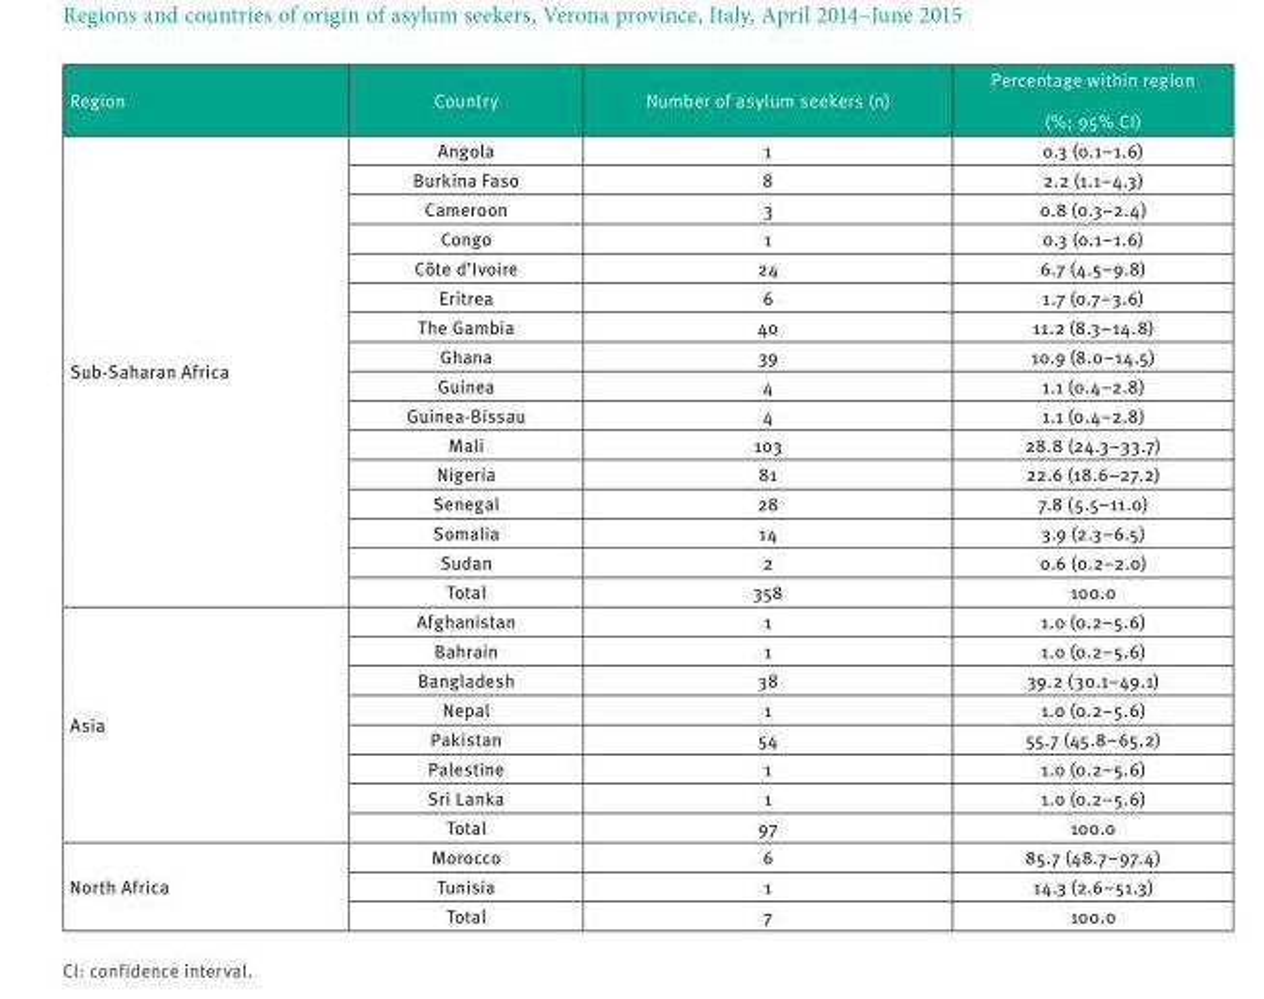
<table><thead><tr><td>Region</td><td>Country</td><td>Number of asylum seekers (n)</td><td>Percentage within region (%; 95% CI)</td></tr></thead><tbody><tr><td rowspan="16">Sub-Saharan Africa</td><td>Angola</td><td>1</td><td>0.3 (0.1–1.6)</td></tr><tr><td>Burkina Faso</td><td>8</td><td>2.2 (1.1–4.3)</td></tr><tr><td>Cameroon</td><td>3</td><td>0.8 (0.3–2.4)</td></tr><tr><td>Congo</td><td>1</td><td>0.3 (0.1–1.6)</td></tr><tr><td>Côte d’Ivoire</td><td>24</td><td>6.7 (4.5–9.8)</td></tr><tr><td>Eritrea</td><td>6</td><td>1.7 (0.7–3.6)</td></tr><tr><td>The Gambia</td><td>40</td><td>11.2 (8.3–14.8)</td></tr><tr><td>Ghana</td><td>39</td><td>10.9 (8.0–14.5)</td></tr><tr><td>Guinea</td><td>4</td><td>1.1 (0.4–2.8)</td></tr><tr><td>Guinea-Bissau</td><td>4</td><td>1.1 (0.4–2.8)</td></tr><tr><td>Mali</td><td>103</td><td>28.8 (24.3–33.7)</td></tr><tr><td>Nigeria</td><td>81</td><td>22.6 (18.6–27.2)</td></tr><tr><td>Senegal</td><td>28</td><td>7.8 (5.5–11.0)</td></tr><tr><td>Somalia</td><td>14</td><td>3.9 (2.3–6.5)</td></tr><tr><td>Sudan</td><td>2</td><td>0.6 (0.2–2.0)</td></tr><tr><td>Total</td><td>358</td><td>100.0</td></tr><tr><td rowspan="8">Asia</td><td>Afghanistan</td><td>1</td><td>1.0 (0.2–5.6)</td></tr><tr><td>Bahrain</td><td>1</td><td>1.0 (0.2–5.6)</td></tr><tr><td>Bangladesh</td><td>38</td><td>39.2 (30.1–49.1)</td></tr><tr><td>Nepal</td><td>1</td><td>1.0 (0.2–5.6)</td></tr><tr><td>Pakistan</td><td>54</td><td>55.7 (45.8–65.2)</td></tr><tr><td>Palestine</td><td>1</td><td>1.0 (0.2–5.6)</td></tr><tr><td>Sri Lanka</td><td>1</td><td>1.0 (0.2–5.6)</td></tr><tr><td>Total</td><td>97</td><td>100.0</td></tr><tr><td rowspan="3">North Africa</td><td>Morocco</td><td>6</td><td>85.7 (48.7–97.4)</td></tr><tr><td>Tunisia</td><td>1</td><td>14.3 (2.6–51.3)</td></tr><tr><td>Total</td><td>7</td><td>100.0</td></tr></tbody></table>